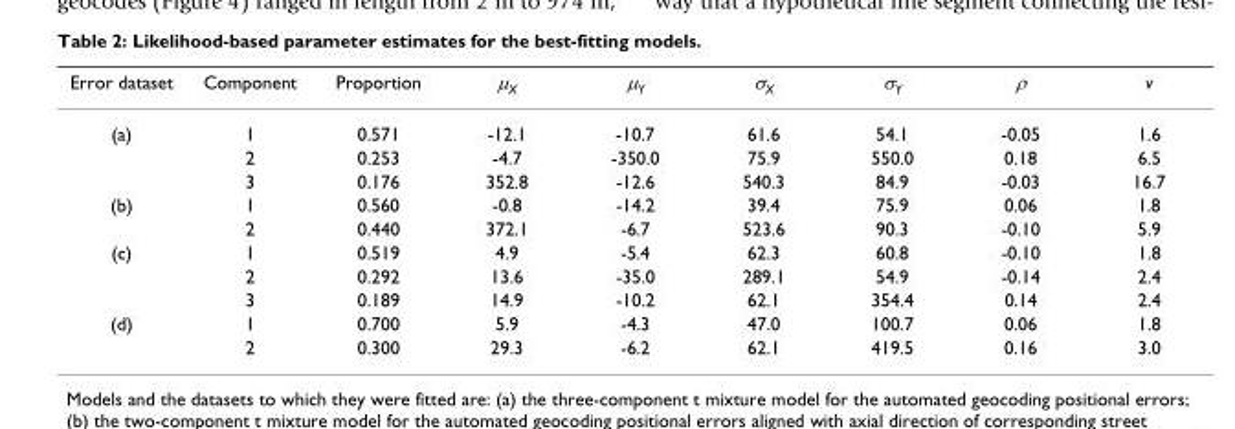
<table><thead><tr><td>Error dataset</td><td>Component</td><td>Proportion</td><td>µ<sub>X</sub></td><td>µ<sub>Y</sub></td><td>σ<sub>X</sub></td><td>σ<sub>Y</sub></td><td>ρ</td><td>v</td></tr></thead><tbody><tr><td rowspan="3">(a)</td><td>1</td><td>0.571</td><td>-12.1</td><td>-10.7</td><td>61.6</td><td>54.1</td><td>-0.05</td><td>1.6</td></tr><tr><td>2</td><td>0.253</td><td>-4.7</td><td>-350.0</td><td>75.9</td><td>550.0</td><td>0.18</td><td>6.5</td></tr><tr><td>3</td><td>0.176</td><td>352.8</td><td>-12.6</td><td>540.3</td><td>84.9</td><td>-0.03</td><td>16.7</td></tr><tr><td rowspan="2">(b)</td><td>1</td><td>0.560</td><td>-0.8</td><td>-14.2</td><td>39.4</td><td>75.9</td><td>0.06</td><td>1.8</td></tr><tr><td>2</td><td>0.440</td><td>372.1</td><td>-6.7</td><td>523.6</td><td>90.3</td><td>-0.10</td><td>5.9</td></tr><tr><td rowspan="3">(c)</td><td>1</td><td>0.519</td><td>4.9</td><td>-5.4</td><td>62.3</td><td>60.8</td><td>-0.10</td><td>1.8</td></tr><tr><td>2</td><td>0.292</td><td>13.6</td><td>-35.0</td><td>289.1</td><td>54.9</td><td>-0.14</td><td>2.4</td></tr><tr><td>3</td><td>0.189</td><td>14.9</td><td>-10.2</td><td>62.1</td><td>354.4</td><td>0.14</td><td>2.4</td></tr><tr><td rowspan="2">(d)</td><td>1</td><td>0.700</td><td>5.9</td><td>-4.3</td><td>47.0</td><td>100.7</td><td>0.06</td><td>1.8</td></tr><tr><td>2</td><td>0.300</td><td>29.3</td><td>-6.2</td><td>62.1</td><td>419.5</td><td>0.16</td><td>3.0</td></tr></tbody></table>